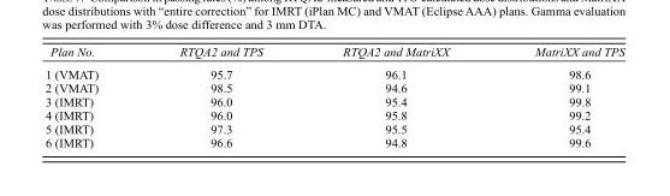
<table><thead><tr><td>Plan No.</td><td>RTQA2 and TPS</td><td>RTQA2 and MatriXX</td><td>MatriXX and TPS</td></tr></thead><tbody><tr><td>1 (VMAT)</td><td>95.7</td><td>96.1</td><td>98.6</td></tr><tr><td>2 (VMAT)</td><td>98.5</td><td>94.6</td><td>99.1</td></tr><tr><td>3 (IMRT)</td><td>96.0</td><td>95.4</td><td>99.8</td></tr><tr><td>4 (IMRT)</td><td>96.0</td><td>95.8</td><td>99.2</td></tr><tr><td>5 (IMRT)</td><td>97.3</td><td>95.5</td><td>95.4</td></tr><tr><td>6 (IMRT)</td><td>96.6</td><td>94.8</td><td>99.6</td></tr></tbody></table>